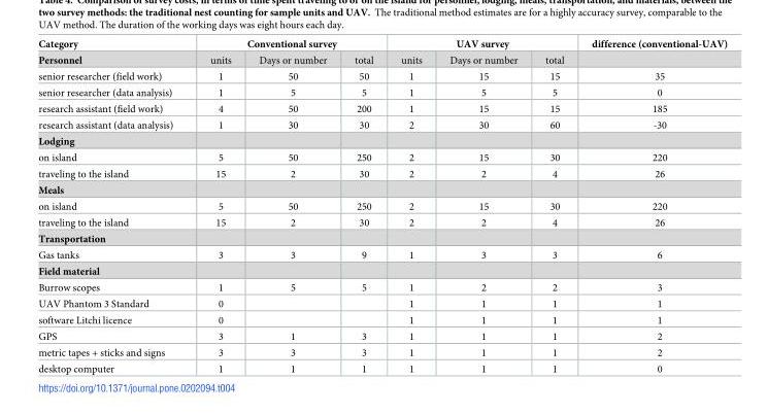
<table><thead><tr><td rowspan="2">Category Personnel</td><td colspan="3">Conventional survey</td><td colspan="3">UAV survey</td><td rowspan="2">difference (conventional-UAV)</td></tr><tr><td>units</td><td>Days or number</td><td>total</td><td>units</td><td>Days or number</td><td>total</td></tr></thead><tbody><tr><td>senior researcher (field work)</td><td>1</td><td>50</td><td>50</td><td>1</td><td>15</td><td>15</td><td>35</td></tr><tr><td>senior researcher (data analysis)</td><td>1</td><td>5</td><td>5</td><td>1</td><td>5</td><td>5</td><td>0</td></tr><tr><td>research assistant (field work)</td><td>4</td><td>50</td><td>200</td><td>1</td><td>15</td><td>15</td><td>185</td></tr><tr><td>research assistant (data analysis)</td><td>1</td><td>30</td><td>30</td><td>2</td><td>30</td><td>60</td><td>-30</td></tr><tr><td colspan="8">Lodging</td></tr><tr><td>on island</td><td>5</td><td>50</td><td>250</td><td>2</td><td>15</td><td>30</td><td>220</td></tr><tr><td>traveling to the island</td><td>15</td><td>2</td><td>30</td><td>2</td><td>2</td><td>4</td><td>26</td></tr><tr><td colspan="8">Meals</td></tr><tr><td>on island</td><td>5</td><td>50</td><td>250</td><td>2</td><td>15</td><td>30</td><td>220</td></tr><tr><td>traveling to the island</td><td>15</td><td>2</td><td>30</td><td>2</td><td>2</td><td>4</td><td>26</td></tr><tr><td colspan="8">Transportation</td></tr><tr><td>Gas tanks</td><td>3</td><td>3</td><td>9</td><td>1</td><td>3</td><td>3</td><td>6</td></tr><tr><td colspan="8">Field material</td></tr><tr><td>Burrow scopes</td><td>1</td><td>5</td><td>5</td><td>1</td><td>2</td><td>2</td><td>3</td></tr><tr><td>UAV Phantom 3 Standard</td><td>0</td><td></td><td></td><td>1</td><td>1</td><td>1</td><td>1</td></tr><tr><td>software Litchi licence</td><td>0</td><td></td><td></td><td>1</td><td>1</td><td>1</td><td>1</td></tr><tr><td>GPS</td><td>3</td><td>1</td><td>3</td><td>1</td><td>1</td><td>1</td><td>2</td></tr><tr><td>metric tapes + sticks and signs</td><td>3</td><td>3</td><td>3</td><td>1</td><td>1</td><td>1</td><td>2</td></tr><tr><td>desktop computer</td><td>1</td><td>1</td><td>1</td><td>1</td><td>1</td><td>1</td><td>0</td></tr></tbody></table>